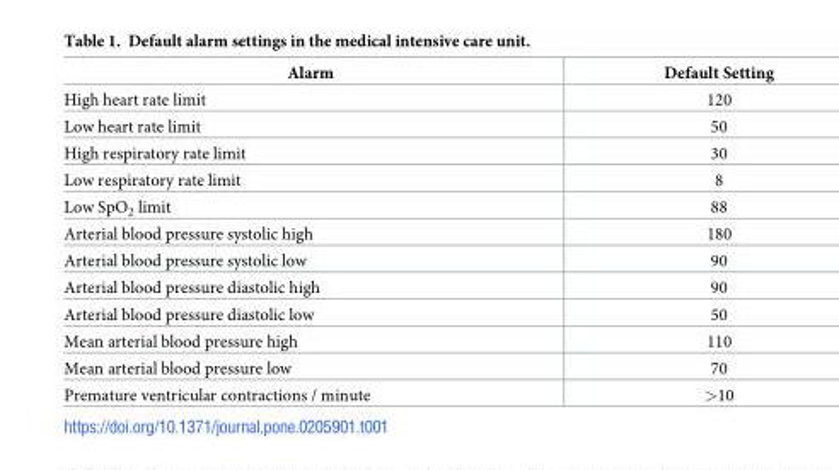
<table><thead><tr><td>Alarm</td><td>Default Setting</td></tr></thead><tbody><tr><td>High heart rate limit</td><td>120</td></tr><tr><td>Low heart rate limit</td><td>50</td></tr><tr><td>High respiratory rate limit</td><td>30</td></tr><tr><td>Low respiratory rate limit</td><td>8</td></tr><tr><td>Low SpO<sub>2</sub> limit</td><td>88</td></tr><tr><td>Arterial blood pressure systolic high</td><td>180</td></tr><tr><td>Arterial blood pressure systolic low</td><td>90</td></tr><tr><td>Arterial blood pressure diastolic high</td><td>90</td></tr><tr><td>Arterial blood pressure diastolic low</td><td>50</td></tr><tr><td>Mean arterial blood pressure high</td><td>110</td></tr><tr><td>Mean arterial blood pressure low</td><td>70</td></tr><tr><td>Premature ventricular contractions / minute</td><td>&gt;10</td></tr></tbody></table>